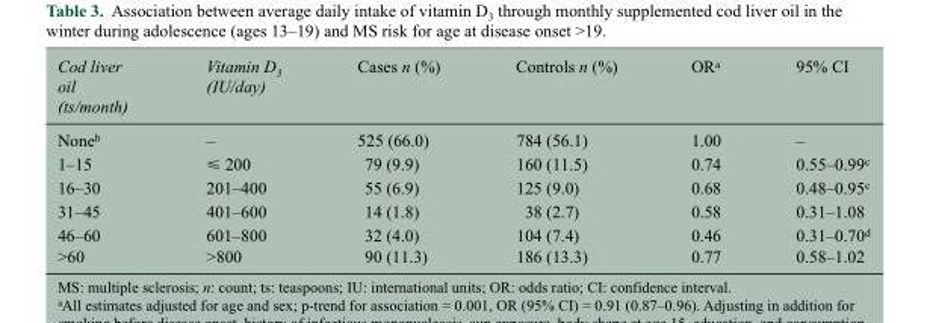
<table><thead><tr><td>Cod liver oil (ts/month)</td><td>Vitamin D<sub>3</sub> (IU/day)</td><td>Cases n (%)</td><td>Controls n (%)</td><td>OR<sup>a</sup></td><td>95% CI</td></tr></thead><tbody><tr><td>None<sup>b</sup></td><td>–</td><td>525 (66.0)</td><td>784 (56.1)</td><td>1.00</td><td>–</td></tr><tr><td>1–15</td><td>⩽ 200</td><td>79 (9.9)</td><td>160 (11.5)</td><td>0.74</td><td>0.55–0.99<sup>c</sup></td></tr><tr><td>16–30</td><td>201–400</td><td>55 (6.9)</td><td>125 (9.0)</td><td>0.68</td><td>0.48–0.95<sup>c</sup></td></tr><tr><td>31–45</td><td>401–600</td><td>14 (1.8)</td><td>38 (2.7)</td><td>0.58</td><td>0.31–1.08</td></tr><tr><td>46–60</td><td>601–800</td><td>32 (4.0)</td><td>104 (7.4)</td><td>0.46</td><td>0.31–0.70<sup>d</sup></td></tr><tr><td>&gt;60</td><td>&gt;800</td><td>90 (11.3)</td><td>186 (13.3)</td><td>0.77</td><td>0.58–1.02</td></tr></tbody></table>